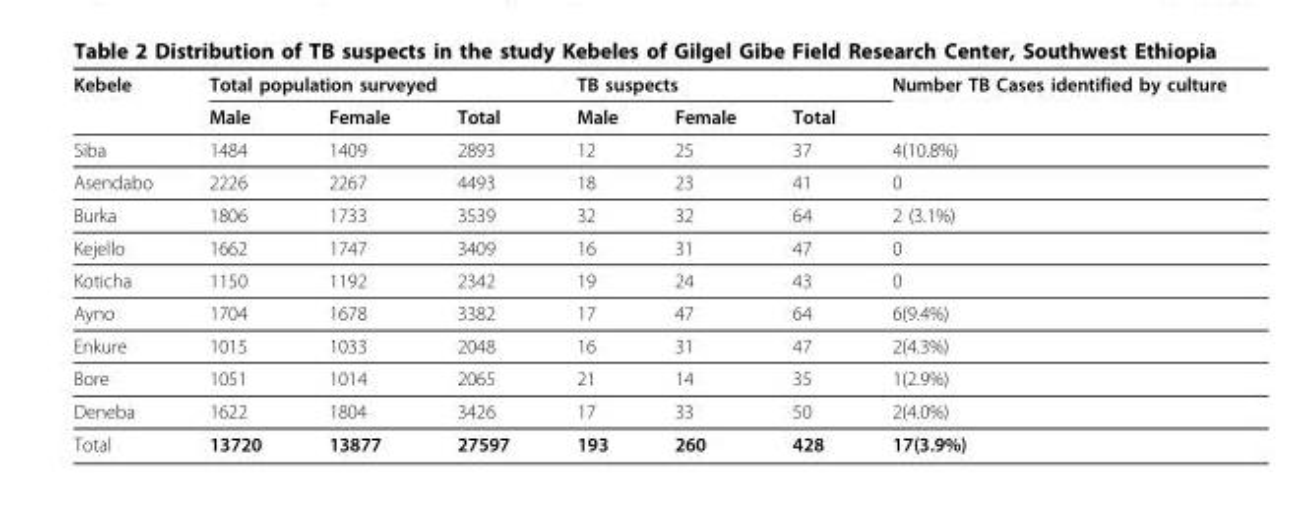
<table><thead><tr><td rowspan="2">Kebele</td><td colspan="3">Total population surveyed</td><td colspan="3">TB suspects</td><td rowspan="2">Number TB Cases identified by culture</td></tr><tr><td>Male</td><td>Female</td><td>Total</td><td>Male</td><td>Female</td><td>Total</td></tr></thead><tbody><tr><td>Siba</td><td>1484</td><td>1409</td><td>2893</td><td>12</td><td>25</td><td>37</td><td>4(10.8%)</td></tr><tr><td>Asendabo</td><td>2226</td><td>2267</td><td>4493</td><td>18</td><td>23</td><td>41</td><td>0</td></tr><tr><td>Burka</td><td>1806</td><td>1733</td><td>3539</td><td>32</td><td>32</td><td>64</td><td>2 (3.1%)</td></tr><tr><td>Kejello</td><td>1662</td><td>1747</td><td>3409</td><td>16</td><td>31</td><td>47</td><td>0</td></tr><tr><td>Koticha</td><td>1150</td><td>1192</td><td>2342</td><td>19</td><td>24</td><td>43</td><td>0</td></tr><tr><td>Ayno</td><td>1704</td><td>1678</td><td>3382</td><td>17</td><td>47</td><td>64</td><td>6(9.4%)</td></tr><tr><td>Enkure</td><td>1015</td><td>1033</td><td>2048</td><td>16</td><td>31</td><td>47</td><td>2(4.3%)</td></tr><tr><td>Bore</td><td>1051</td><td>1014</td><td>2065</td><td>21</td><td>14</td><td>35</td><td>1(2.9%)</td></tr><tr><td>Deneba</td><td>1622</td><td>1804</td><td>3426</td><td>17</td><td>33</td><td>50</td><td>2(4.0%)</td></tr><tr><td>Total</td><td>13720</td><td>13877</td><td>27597</td><td>193</td><td>260</td><td>428</td><td>17(3.9%)</td></tr></tbody></table>